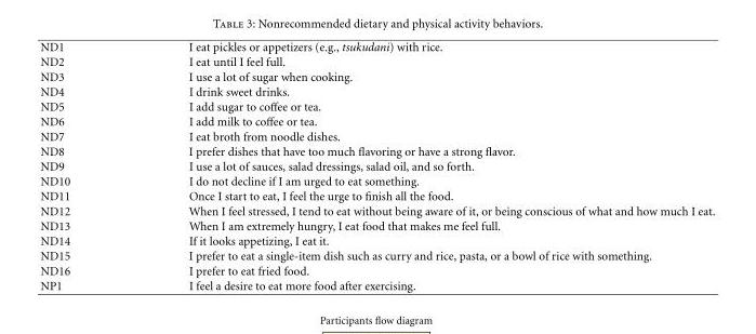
<table><tbody><tr><td>ND1</td><td>I eat pickles or appetizers (e.g., tsukudani) with rice.</td></tr><tr><td>ND2</td><td>I eat until I feel full.</td></tr><tr><td>ND3</td><td>I use a lot of sugar when cooking.</td></tr><tr><td>ND4</td><td>I drink sweet drinks.</td></tr><tr><td>ND5</td><td>I add sugar to coffee or tea.</td></tr><tr><td>ND6</td><td>I add milk to coffee or tea.</td></tr><tr><td>ND7</td><td>I eat broth from noodle dishes.</td></tr><tr><td>ND8</td><td>I prefer dishes that have too much flavoring or have a strong flavor.</td></tr><tr><td>ND9</td><td>I use a lot of sauces, salad dressings, salad oil, and so forth.</td></tr><tr><td>ND10</td><td>I do not decline if I am urged to eat something.</td></tr><tr><td>ND11</td><td>Once I start to eat, I feel the urge to finish all the food.</td></tr><tr><td>ND12</td><td>When I feel stressed, I tend to eat without being aware of it, or being conscious of what and how much I eat.</td></tr><tr><td>ND13</td><td>When I am extremely hungry, I eat food that makes me feel full.</td></tr><tr><td>ND14</td><td>If it looks appetizing, I eat it.</td></tr><tr><td>ND15</td><td>I prefer to eat a single-item dish such as curry and rice, pasta, or a bowl of rice with something.</td></tr><tr><td>ND16</td><td>I prefer to eat fried food.</td></tr><tr><td>NP1</td><td>I feel a desire to eat more food after exercising.</td></tr></tbody></table>